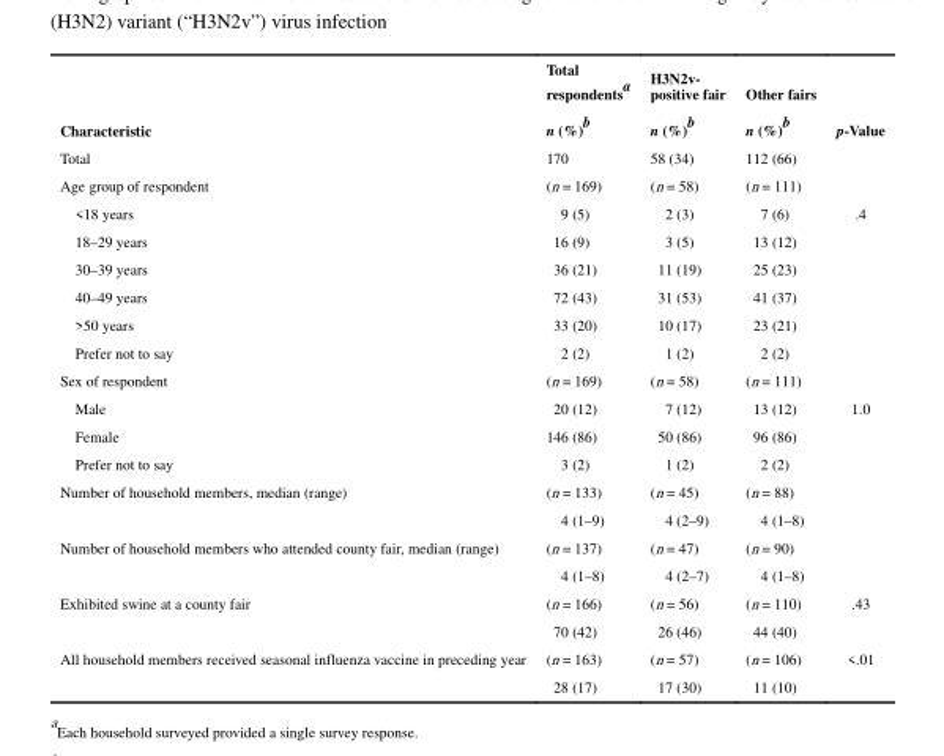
<table><thead><tr><td rowspan="2">Characteristic</td><td rowspan="2">Total respondents<sup>a</sup> n (%)<sup>b</sup></td><td rowspan="2">H3N2v- positive fair n (%)<sup>b</sup></td><td rowspan="2">Other fairs n (%)<sup>b</sup></td><td rowspan="2">p-Value</td></tr><tr></tr></thead><tbody><tr><td>Total</td><td>170</td><td>58 (34)</td><td>112 (66)</td><td></td></tr><tr><td>Age group of respondent</td><td>(n = 169)</td><td>(n = 58)</td><td>(n = 111)</td><td></td></tr><tr><td>&lt;18 years</td><td>9 (5)</td><td>2 (3)</td><td>7 (6)</td><td>.4</td></tr><tr><td>18–29 years</td><td>16 (9)</td><td>3 (5)</td><td>13 (12)</td><td></td></tr><tr><td>30–39 years</td><td>36 (21)</td><td>11 (19)</td><td>25 (23)</td><td></td></tr><tr><td>40–49 years</td><td>72 (43)</td><td>31 (53)</td><td>41 (37)</td><td></td></tr><tr><td>&gt;50 years</td><td>33 (20)</td><td>10 (17)</td><td>23 (21)</td><td></td></tr><tr><td>Prefer not to say</td><td>2 (2)</td><td>1 (2)</td><td>2 (2)</td><td></td></tr><tr><td>Sex of respondent</td><td>(n = 169)</td><td>(n = 58)</td><td>(n = 111)</td><td></td></tr><tr><td>Male</td><td>20 (12)</td><td>7 (12)</td><td>13 (12)</td><td>1.0</td></tr><tr><td>Female</td><td>146 (86)</td><td>50 (86)</td><td>96 (86)</td><td></td></tr><tr><td>Prefer not to say</td><td>3 (2)</td><td>1 (2)</td><td>2 (2)</td><td></td></tr><tr><td rowspan="2">Number of household members, median (range)</td><td>(n = 133)</td><td>(n = 45)</td><td>(n = 88)</td><td></td></tr><tr><td>4 (1–9)</td><td>4 (2–9)</td><td>4 (1–8)</td><td></td></tr><tr><td rowspan="2">Number of household members who attended county fair, median (range)</td><td>(n = 137)</td><td>(n = 47)</td><td>(n = 90)</td><td></td></tr><tr><td>4 (1–8)</td><td>4 (2–7)</td><td>4 (1–8)</td><td></td></tr><tr><td rowspan="2">Exhibited swine at a county fair</td><td>(n = 166)</td><td>(n = 56)</td><td>(n = 110)</td><td>.43</td></tr><tr><td>70 (42)</td><td>26 (46)</td><td>44 (40)</td><td></td></tr><tr><td rowspan="2">All household members received seasonal influenza vaccine in preceding year</td><td>(n = 163)</td><td>(n = 57)</td><td>(n = 106)</td><td>&lt;.01</td></tr><tr><td>28 (17)</td><td>17 (30)</td><td>11 (10)</td><td></td></tr></tbody></table>